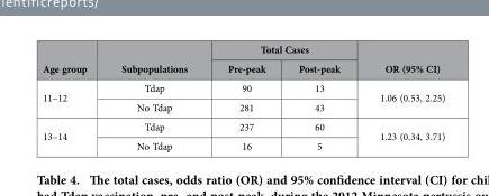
<table><thead><tr><td rowspan="2">Age group</td><td rowspan="2">Subpopulations</td><td colspan="2">Total Cases</td><td rowspan="2">OR (95% CI)</td></tr><tr><td>Pre-peak</td><td>Post-peak</td></tr></thead><tbody><tr><td rowspan="2">11–12</td><td>Tdap</td><td>90</td><td>13</td><td rowspan="2">1.06 (0.53, 2.25)</td></tr><tr><td>No Tdap</td><td>281</td><td>43</td></tr><tr><td rowspan="2">13–14</td><td>Tdap</td><td>237</td><td>60</td><td rowspan="2">1.23 (0.34, 3.71)</td></tr><tr><td>No Tdap</td><td>16</td><td>5</td></tr></tbody></table>